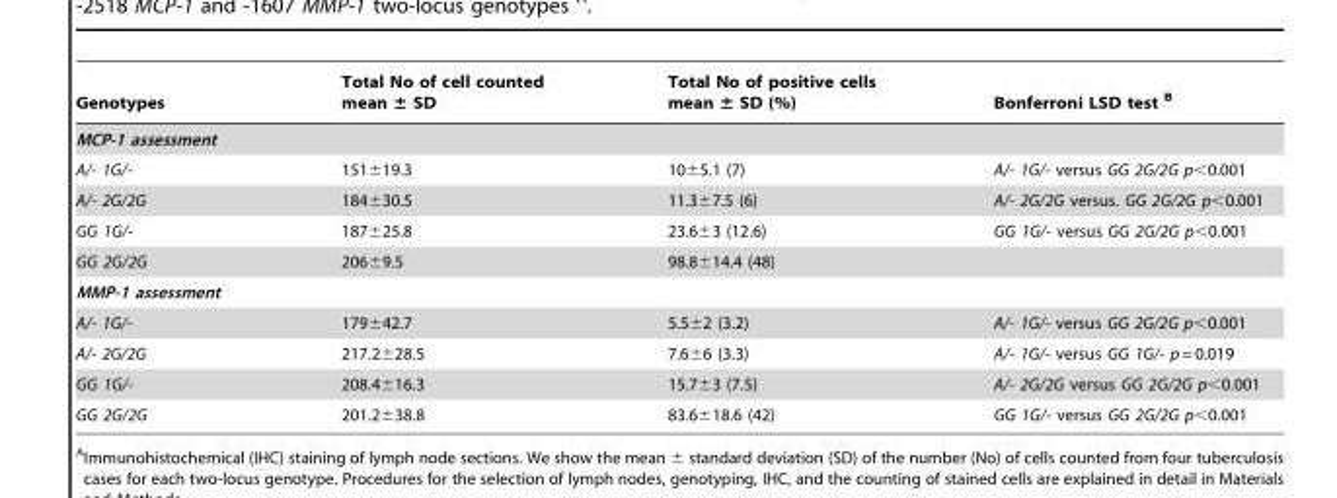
<table><thead><tr><td>Genotypes</td><td>Total No of cell counted mean ± SD</td><td>Total No of positive cells mean ± SD (%)</td><td>Bonferroni LSD test B</td></tr></thead><tbody><tr><td colspan="4">MCP-1 assessment</td></tr><tr><td>A/- 1G/-</td><td>151±19.3</td><td>10±5.1 (7)</td><td>A/- 1G/- versus GG 2G/2G p&lt;0.001</td></tr><tr><td>A/- 2G/2G</td><td>184±30.5</td><td>11.3±7.5 (6)</td><td>A/- 2G/2G versus. GG 2G/2G p&lt;0.001</td></tr><tr><td>GG 1G/-</td><td>187±25.8</td><td>23.6±3 (12.6)</td><td>GG 1G/- versus GG 2G/2G p&lt;0.001</td></tr><tr><td>GG 2G/2G</td><td>206±9.5</td><td>98.8±14.4 (48)</td><td></td></tr><tr><td colspan="4">MMP-1 assessment</td></tr><tr><td>A/- 1G/-</td><td>179±42.7</td><td>5.5±2 (3.2)</td><td>A/- 1G/- versus GG 2G/2G p&lt;0.001</td></tr><tr><td>A/- 2G/2G</td><td>217.2±28.5</td><td>7.6±6 (3.3)</td><td>A/- 1G/- versus GG 1G/- p = 0.019</td></tr><tr><td>GG 1G/-</td><td>208.4±16.3</td><td>15.7±3 (7.5)</td><td>A/- 2G/2G versus GG 2G/2G p&lt;0.001</td></tr><tr><td>GG 2G/2G</td><td>201.2±38.8</td><td>83.6±18.6 (42)</td><td>GG 1G/- versus GG 2G/2G p&lt;0.001</td></tr></tbody></table>